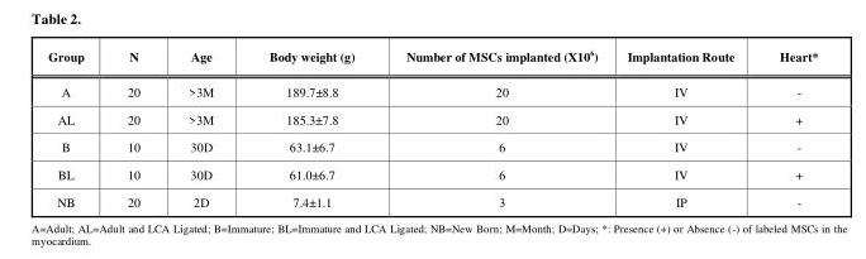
<table><thead><tr><td>Group</td><td>N</td><td>Age</td><td>Body weight (g)</td><td>Number of MSCs implanted (X10<sup>6</sup>)</td><td>Implantation Route</td><td>Heart*</td></tr></thead><tbody><tr><td>A</td><td>20</td><td>&gt;3M</td><td>189.7±8.8</td><td>20</td><td>IV</td><td>-</td></tr><tr><td>AL</td><td>20</td><td>&gt;3M</td><td>185.3±7.8</td><td>20</td><td>IV</td><td>+</td></tr><tr><td>B</td><td>10</td><td>30D</td><td>63.1±6.7</td><td>6</td><td>IV</td><td>-</td></tr><tr><td>BL</td><td>10</td><td>30D</td><td>61.0±6.7</td><td>6</td><td>IV</td><td>+</td></tr><tr><td>NB</td><td>20</td><td>2D</td><td>7.4±1.1</td><td>3</td><td>IP</td><td>-</td></tr></tbody></table>